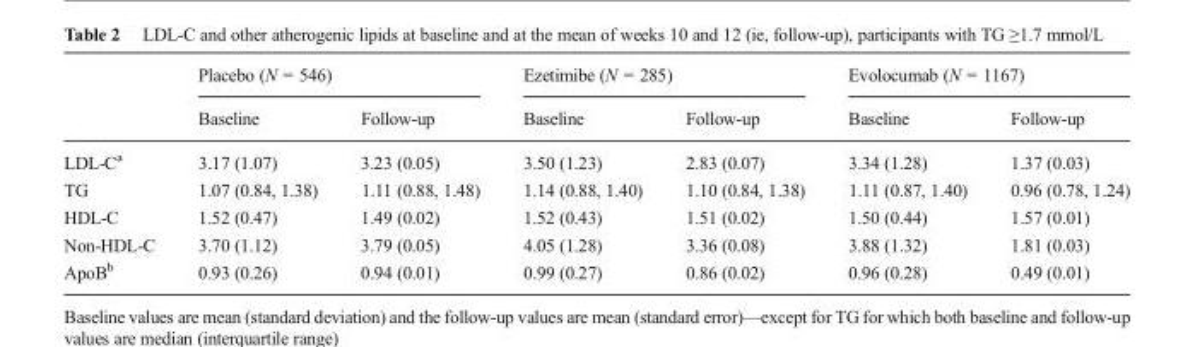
<table><thead><tr><td rowspan="2"></td><td colspan="2">Placebo (N = 546)</td><td colspan="2">Ezetimibe (N = 285)</td><td colspan="2">Evolocumab (N = 1167)</td></tr><tr><td>Baseline</td><td>Follow-up</td><td>Baseline</td><td>Follow-up</td><td>Baseline</td><td>Follow-up</td></tr></thead><tbody><tr><td>LDL-C<sup>a</sup></td><td>3.17 (1.07)</td><td>3.23 (0.05)</td><td>3.50 (1.23)</td><td>2.83 (0.07)</td><td>3.34 (1.28)</td><td>1.37 (0.03)</td></tr><tr><td>TG</td><td>1.07 (0.84, 1.38)</td><td>1.11 (0.88, 1.48)</td><td>1.14 (0.88, 1.40)</td><td>1.10 (0.84, 1.38)</td><td>1.11 (0.87, 1.40)</td><td>0.96 (0.78, 1.24)</td></tr><tr><td>HDL-C</td><td>1.52 (0.47)</td><td>1.49 (0.02)</td><td>1.52 (0.43)</td><td>1.51 (0.02)</td><td>1.50 (0.44)</td><td>1.57 (0.01)</td></tr><tr><td>Non-HDL-C</td><td>3.70 (1.12)</td><td>3.79 (0.05)</td><td>4.05 (1.28)</td><td>3.36 (0.08)</td><td>3.88 (1.32)</td><td>1.81 (0.03)</td></tr><tr><td>ApoB<sup>b</sup></td><td>0.93 (0.26)</td><td>0.94 (0.01)</td><td>0.99 (0.27)</td><td>0.86 (0.02)</td><td>0.96 (0.28)</td><td>0.49 (0.01)</td></tr></tbody></table>